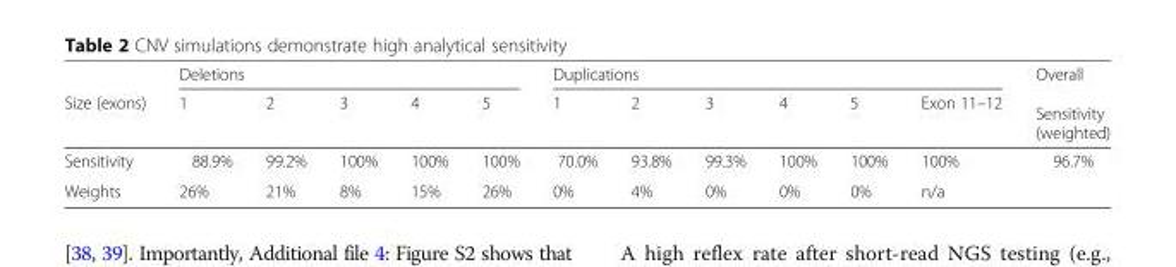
<table><thead><tr><td rowspan="2">Size (exons)</td><td colspan="5">Deletions</td><td colspan="6">Duplications</td><td rowspan="2">Overall Sensitivity (weighted)</td></tr><tr><td>1</td><td>2</td><td>3</td><td>4</td><td>5</td><td>1</td><td>2</td><td>3</td><td>4</td><td>5</td><td>Exon 11–12</td></tr></thead><tbody><tr><td>Sensitivity</td><td>88.9%</td><td>99.2%</td><td>100%</td><td>100%</td><td>100%</td><td>70.0%</td><td>93.8%</td><td>99.3%</td><td>100%</td><td>100%</td><td>100%</td><td>96.7%</td></tr><tr><td>Weights</td><td>26%</td><td>21%</td><td>8%</td><td>15%</td><td>26%</td><td>0%</td><td>4%</td><td>0%</td><td>0%</td><td>0%</td><td>n/a</td><td></td></tr></tbody></table>